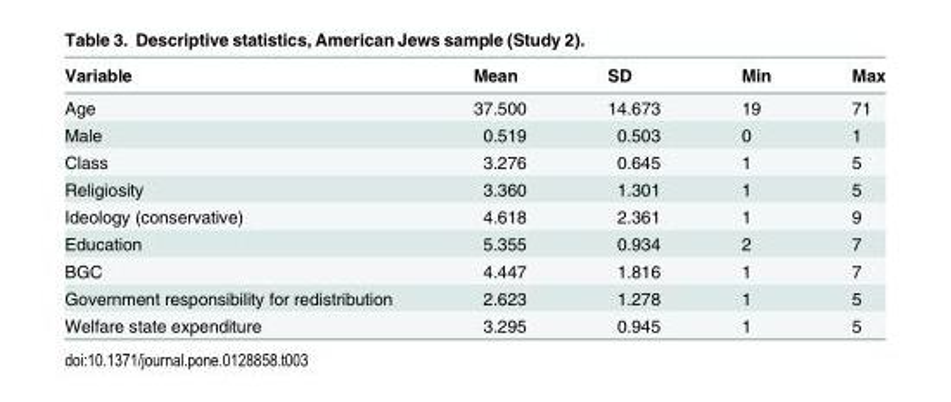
<table><thead><tr><td>Variable</td><td>Mean</td><td>SD</td><td>Min</td><td>Max</td></tr></thead><tbody><tr><td>Age</td><td>37.500</td><td>14.673</td><td>19</td><td>71</td></tr><tr><td>Male</td><td>0.519</td><td>0.503</td><td>0</td><td>1</td></tr><tr><td>Class</td><td>3.276</td><td>0.645</td><td>1</td><td>5</td></tr><tr><td>Religiosity</td><td>3.360</td><td>1.301</td><td>1</td><td>5</td></tr><tr><td>Ideology (conservative)</td><td>4.618</td><td>2.361</td><td>1</td><td>9</td></tr><tr><td>Education</td><td>5.355</td><td>0.934</td><td>2</td><td>7</td></tr><tr><td>BGC</td><td>4.447</td><td>1.816</td><td>1</td><td>7</td></tr><tr><td>Government responsibility for redistribution</td><td>2.623</td><td>1.278</td><td>1</td><td>5</td></tr><tr><td>Welfare state expenditure</td><td>3.295</td><td>0.945</td><td>1</td><td>5</td></tr></tbody></table>